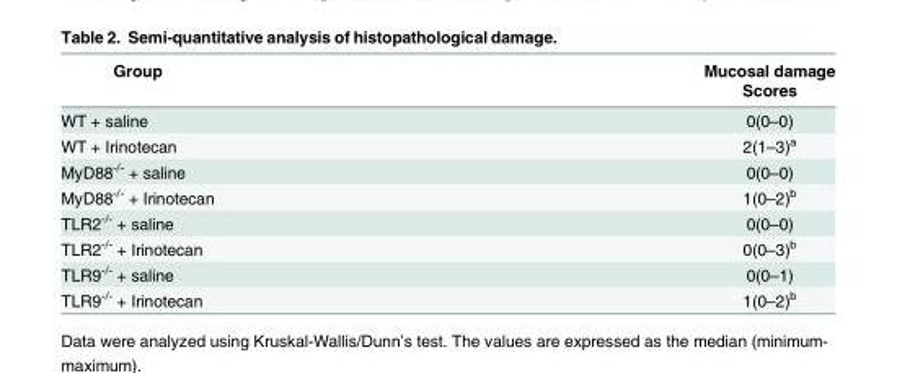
<table><thead><tr><td rowspan="2">Group</td><td rowspan="2">Mucosal damage Scores</td></tr><tr></tr></thead><tbody><tr><td>WT + saline</td><td>0(0–0)</td></tr><tr><td>WT + Irinotecan</td><td>2(1–3)<sup>a</sup></td></tr><tr><td>MyD88<sup>-/-</sup> + saline</td><td>0(0–0)</td></tr><tr><td>MyD88<sup>-/-</sup> + Irinotecan</td><td>1(0–2)<sup>b</sup></td></tr><tr><td>TLR2<sup>-/-</sup> + saline</td><td>0(0–0)</td></tr><tr><td>TLR2<sup>-/-</sup> + Irinotecan</td><td>0(0–3)<sup>b</sup></td></tr><tr><td>TLR9<sup>-/-</sup> + saline</td><td>0(0–1)</td></tr><tr><td>TLR9<sup>-/-</sup> + Irinotecan</td><td>1(0–2)<sup>b</sup></td></tr></tbody></table>